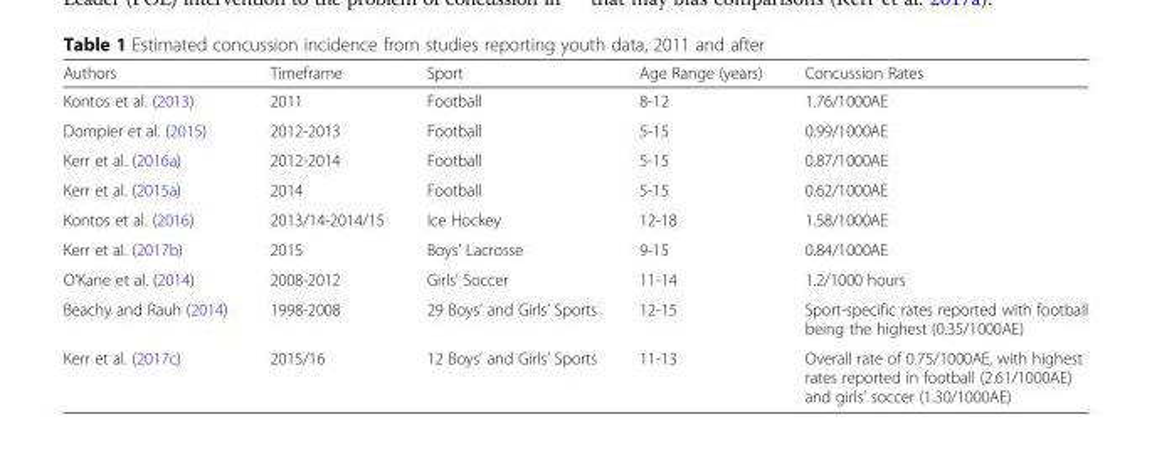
<table><thead><tr><td>Authors</td><td>Timeframe</td><td>Sport</td><td>Age Range (years)</td><td>Concussion Rates</td></tr></thead><tbody><tr><td>Kontos et al. (2013)</td><td>2011</td><td>Football</td><td>8-12</td><td>1.76/1000AE</td></tr><tr><td>Dompier et al. (2015)</td><td>2012-2013</td><td>Football</td><td>5-15</td><td>0.99/1000AE</td></tr><tr><td>Kerr et al. (2016a)</td><td>2012-2014</td><td>Football</td><td>5-15</td><td>0.87/1000AE</td></tr><tr><td>Kerr et al. (2015a)</td><td>2014</td><td>Football</td><td>5-15</td><td>0.62/1000AE</td></tr><tr><td>Kontos et al. (2016)</td><td>2013/14-2014/15</td><td>Ice Hockey</td><td>12-18</td><td>1.58/1000AE</td></tr><tr><td>Kerr et al. (2017b)</td><td>2015</td><td>Boys’ Lacrosse</td><td>9-15</td><td>0.84/1000AE</td></tr><tr><td>O’Kane et al. (2014)</td><td>2008-2012</td><td>Girls’ Soccer</td><td>11-14</td><td>1.2/1000 hours</td></tr><tr><td>Beachy and Rauh (2014)</td><td>1998-2008</td><td>29 Boys’ and Girls’ Sports</td><td>12-15</td><td>Sport-specific rates reported with football being the highest (0.35/1000AE)</td></tr><tr><td>Kerr et al. (2017c)</td><td>2015/16</td><td>12 Boys’ and Girls’ Sports</td><td>11-13</td><td>Overall rate of 0.75/1000AE, with highest rates reported in football (2.61/1000AE) and girls’ soccer (1.30/1000AE)</td></tr></tbody></table>